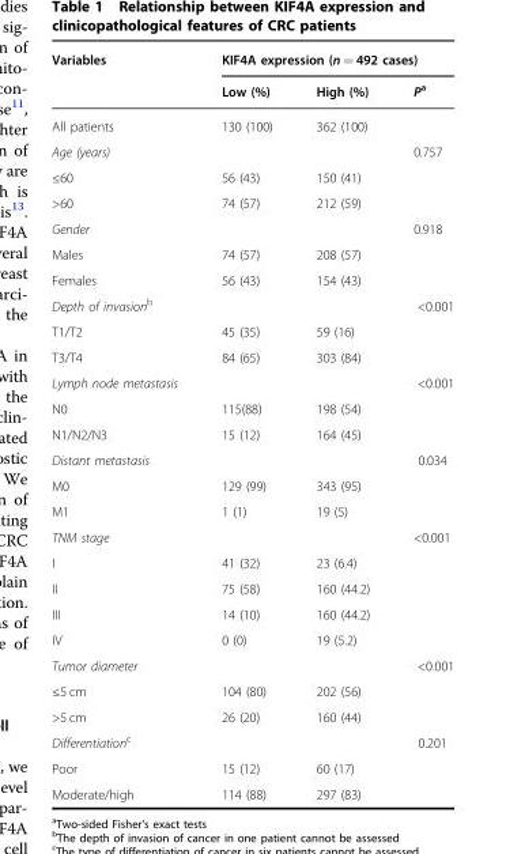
<table><thead><tr><td rowspan="2">Variables</td><td colspan="3">KIF4A expression (n = 492 cases)</td></tr><tr><td>Low (%)</td><td>High (%)</td><td>P<sup>a</sup></td></tr></thead><tbody><tr><td>All patients</td><td>130 (100)</td><td>362 (100)</td><td></td></tr><tr><td>Age (years)</td><td></td><td></td><td>0.757</td></tr><tr><td>≤60</td><td>56 (43)</td><td>150 (41)</td><td></td></tr><tr><td>&gt;60</td><td>74 (57)</td><td>212 (59)</td><td></td></tr><tr><td>Gender</td><td></td><td></td><td>0.918</td></tr><tr><td>Males</td><td>74 (57)</td><td>208 (57)</td><td></td></tr><tr><td>Females</td><td>56 (43)</td><td>154 (43)</td><td></td></tr><tr><td>Depth of invasion<sup>b</sup></td><td></td><td></td><td>&lt;0.001</td></tr><tr><td>T1/T2</td><td>45 (35)</td><td>59 (16)</td><td></td></tr><tr><td>T3/T4</td><td>84 (65)</td><td>303 (84)</td><td></td></tr><tr><td>Lymph node metastasis</td><td></td><td></td><td>&lt;0.001</td></tr><tr><td>N0</td><td>115(88)</td><td>198 (54)</td><td></td></tr><tr><td>N1/N2/N3</td><td>15 (12)</td><td>164 (45)</td><td></td></tr><tr><td>Distant metastasis</td><td></td><td></td><td>0.034</td></tr><tr><td>M0</td><td>129 (99)</td><td>343 (95)</td><td></td></tr><tr><td>M1</td><td>1 (1)</td><td>19 (5)</td><td></td></tr><tr><td>TNM stage</td><td></td><td></td><td>&lt;0.001</td></tr><tr><td>I</td><td>41 (32)</td><td>23 (6.4)</td><td></td></tr><tr><td>II</td><td>75 (58)</td><td>160 (44.2)</td><td></td></tr><tr><td>III</td><td>14 (10)</td><td>160 (44.2)</td><td></td></tr><tr><td>IV</td><td>0 (0)</td><td>19 (5.2)</td><td></td></tr><tr><td>Tumor diameter</td><td></td><td></td><td>&lt;0.001</td></tr><tr><td>≤5 cm</td><td>104 (80)</td><td>202 (56)</td><td></td></tr><tr><td>&gt;5 cm</td><td>26 (20)</td><td>160 (44)</td><td></td></tr><tr><td>Differentiation<sup>c</sup></td><td></td><td></td><td>0.201</td></tr><tr><td>Poor</td><td>15 (12)</td><td>60 (17)</td><td></td></tr><tr><td>Moderate/high</td><td>114 (88)</td><td>297 (83)</td><td></td></tr></tbody></table>